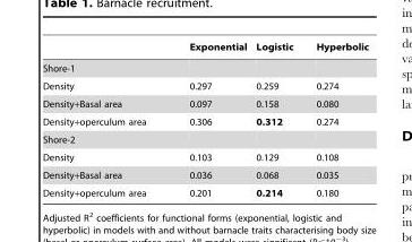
<table><thead><tr><td></td><td>Exponential</td><td>Logistic</td><td>Hyperbolic</td></tr></thead><tbody><tr><td colspan="4">Shore-1</td></tr><tr><td>Density</td><td>0.297</td><td>0.259</td><td>0.274</td></tr><tr><td>Density+Basal area</td><td>0.097</td><td>0.158</td><td>0.080</td></tr><tr><td>Density+operculum area</td><td>0.306</td><td>0.312</td><td>0.274</td></tr><tr><td colspan="4">Shore-2</td></tr><tr><td>Density</td><td>0.103</td><td>0.129</td><td>0.108</td></tr><tr><td>Density+Basal area</td><td>0.036</td><td>0.068</td><td>0.035</td></tr><tr><td>Density+operculum area</td><td>0.201</td><td>0.214</td><td>0.180</td></tr></tbody></table>